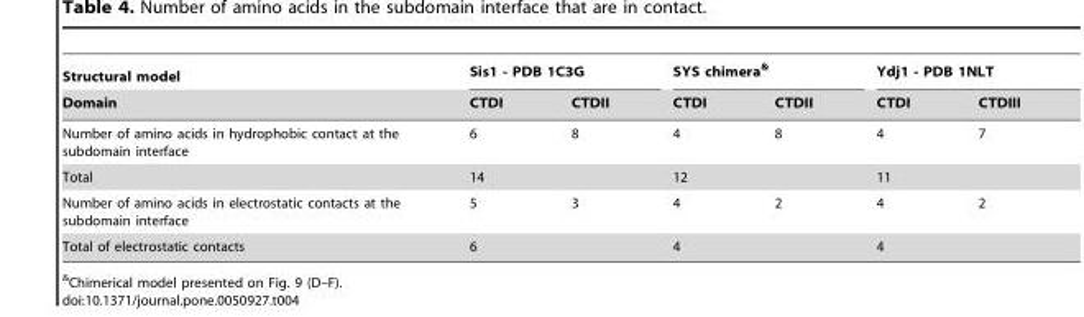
<table><thead><tr><td rowspan="2">Structural model Domain</td><td colspan="2">Sis1 - PDB 1C3G</td><td colspan="2">SYS chimera&amp;</td><td colspan="2">Ydj1 - PDB 1NLT</td></tr><tr><td>CTDI</td><td>CTDII</td><td>CTDI</td><td>CTDII</td><td>CTDI</td><td>CTDIII</td></tr></thead><tbody><tr><td>Number of amino acids in hydrophobic contact at the subdomain interface</td><td>6</td><td>8</td><td>4</td><td>8</td><td>4</td><td>7</td></tr><tr><td>Total</td><td colspan="2">14</td><td colspan="2">12</td><td colspan="2">11</td></tr><tr><td>Number of amino acids in electrostatic contacts at the subdomain interface</td><td>5</td><td>3</td><td>4</td><td>2</td><td>4</td><td>2</td></tr><tr><td>Total of electrostatic contacts</td><td colspan="2">6</td><td colspan="2">4</td><td colspan="2">4</td></tr></tbody></table>